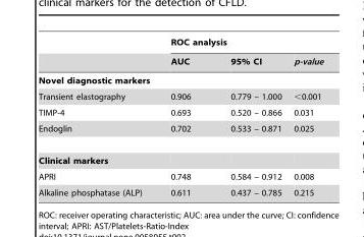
<table><thead><tr><td rowspan="2"></td><td colspan="3">ROC analysis</td></tr><tr><td>AUC</td><td>95% CI</td><td>p-value</td></tr></thead><tbody><tr><td colspan="4">Novel diagnostic markers</td></tr><tr><td>Transient elastography</td><td>0.906</td><td>0.779 – 1.000</td><td>&lt;0.001</td></tr><tr><td>TIMP-4</td><td>0.693</td><td>0.520 – 0.866</td><td>0.031</td></tr><tr><td>Endoglin</td><td>0.702</td><td>0.533 – 0.871</td><td>0.025</td></tr><tr><td colspan="4">Clinical markers</td></tr><tr><td>APRI</td><td>0.748</td><td>0.584 – 0.912</td><td>0.008</td></tr><tr><td>Alkaline phosphatase (ALP)</td><td>0.611</td><td>0.437 – 0.785</td><td>0.215</td></tr></tbody></table>